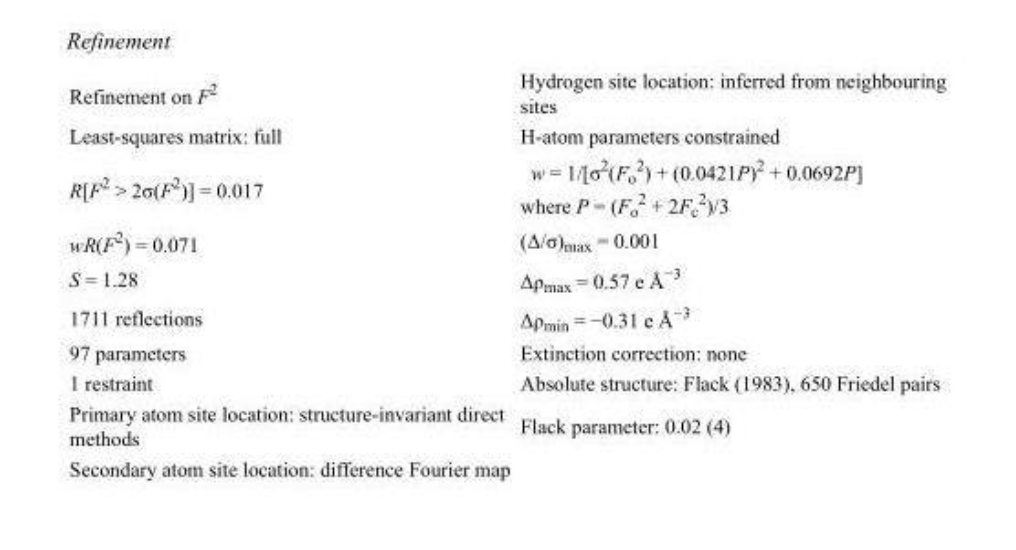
<table><tbody><tr><td>Refinement on F<sup>2</sup></td><td>Hydrogen site location: inferred from neighbouring sites</td></tr><tr><td>Least-squares matrix: full</td><td>H-atom parameters constrained</td></tr><tr><td>R[F<sup>2</sup> &gt; 2σ(F<sup>2</sup>)] = 0.017</td><td>w = 1/[σ<sup>2</sup>(F<sub>o</sub> <sup>2</sup>) + (0.0421P)<sup>2</sup> + 0.0692P] where P = (F<sub>o</sub> <sup>2</sup> + 2F<sub>c</sub> <sup>2</sup>)/3</td></tr><tr><td>wR(F<sup>2</sup>) = 0.071</td><td>(Δ/σ)<sub>max</sub> = 0.001</td></tr><tr><td>S = 1.28</td><td>Δρ<sub>max</sub> = 0.57 e Å<sup>−3</sup></td></tr><tr><td>1711 reflections</td><td>Δρ<sub>min</sub> = −0.31 e Å<sup>−3</sup></td></tr><tr><td>97 parameters</td><td>Extinction correction: none</td></tr><tr><td>1 restraint</td><td>Absolute structure: Flack (1983), 650 Friedel pairs</td></tr><tr><td>Primary atom site location: structure-invariant direct methods</td><td>Flack parameter: 0.02 (4)</td></tr><tr><td>Secondary atom site location: difference Fourier map</td><td></td></tr></tbody></table>